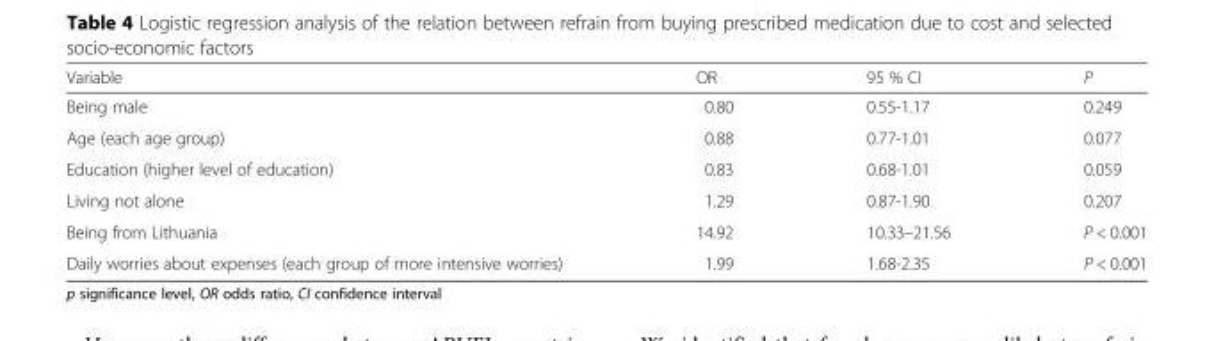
<table><thead><tr><td>Variable</td><td>OR</td><td>95 % CI</td><td>P</td></tr></thead><tbody><tr><td>Being male</td><td>0.80</td><td>0.55-1.17</td><td>0.249</td></tr><tr><td>Age (each age group)</td><td>0.88</td><td>0.77-1.01</td><td>0.077</td></tr><tr><td>Education (higher level of education)</td><td>0.83</td><td>0.68-1.01</td><td>0.059</td></tr><tr><td>Living not alone</td><td>1.29</td><td>0.87-1.90</td><td>0.207</td></tr><tr><td>Being from Lithuania</td><td>14.92</td><td>10.33–21.56</td><td>P &lt; 0.001</td></tr><tr><td>Daily worries about expenses (each group of more intensive worries)</td><td>1.99</td><td>1.68-2.35</td><td>P &lt; 0.001</td></tr></tbody></table>